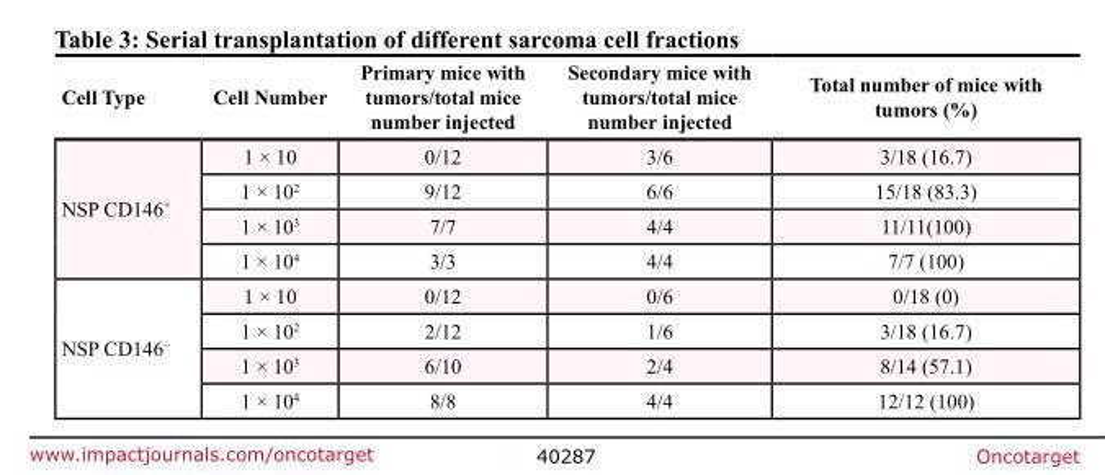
<table><thead><tr><td>Cell Type</td><td>Cell Number</td><td>Primary mice with tumors/total mice number injected</td><td>Secondary mice with tumors/total mice number injected</td><td>Total number of mice with tumors (%)</td></tr></thead><tbody><tr><td rowspan="4">NSP CD146<sup>+</sup></td><td>1 × 10</td><td>0/12</td><td>3/6</td><td>3/18 (16.7)</td></tr><tr><td>1 × 10<sup>2</sup></td><td>9/12</td><td>6/6</td><td>15/18 (83.3)</td></tr><tr><td>1 × 10<sup>3</sup></td><td>7/7</td><td>4/4</td><td>11/11(100)</td></tr><tr><td>1 × 10<sup>4</sup></td><td>3/3</td><td>4/4</td><td>7/7 (100)</td></tr><tr><td rowspan="4">NSP CD146<sup>−</sup></td><td>1 × 10</td><td>0/12</td><td>0/6</td><td>0/18 (0)</td></tr><tr><td>1 × 10<sup>2</sup></td><td>2/12</td><td>1/6</td><td>3/18 (16.7)</td></tr><tr><td>1 × 10<sup>3</sup></td><td>6/10</td><td>2/4</td><td>8/14 (57.1)</td></tr><tr><td>1 × 10<sup>4</sup></td><td>8/8</td><td>4/4</td><td>12/12 (100)</td></tr></tbody></table>